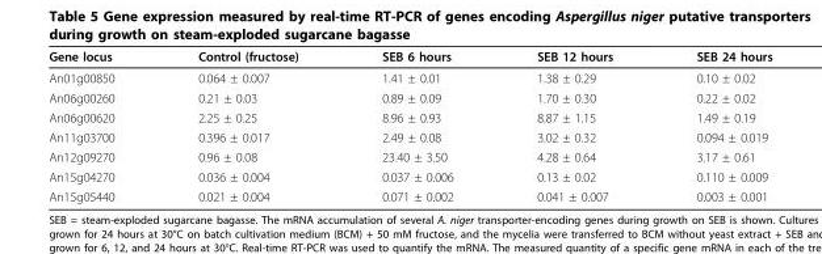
<table><thead><tr><td>Gene locus</td><td>Control (fructose)</td><td>SEB 6 hours</td><td>SEB 12 hours</td><td>SEB 24 hours</td></tr></thead><tbody><tr><td>An01g00850</td><td>0.064 ± 0.007</td><td>1.41 ± 0.01</td><td>1.38 ± 0.29</td><td>0.10 ± 0.02</td></tr><tr><td>An06g00260</td><td>0.21 ± 0.03</td><td>0.89 ± 0.09</td><td>1.70 ± 0.30</td><td>0.22 ± 0.02</td></tr><tr><td>An06g00620</td><td>2.25 ± 0.25</td><td>8.96 ± 0.93</td><td>8.87 ± 1.15</td><td>1.49 ± 0.19</td></tr><tr><td>An11g03700</td><td>0.396 ± 0.017</td><td>2.49 ± 0.08</td><td>3.02 ± 0.32</td><td>0.094 ± 0.019</td></tr><tr><td>An12g09270</td><td>0.96 ± 0.08</td><td>23.40 ± 3.50</td><td>4.28 ± 0.64</td><td>3.17 ± 0.61</td></tr><tr><td>An15g04270</td><td>0.036 ± 0.004</td><td>0.037 ± 0.006</td><td>0.13 ± 0.02</td><td>0.110 ± 0.009</td></tr><tr><td>An15g05440</td><td>0.021 ± 0.004</td><td>0.071 ± 0.002</td><td>0.041 ± 0.007</td><td>0.003 ± 0.001</td></tr></tbody></table>